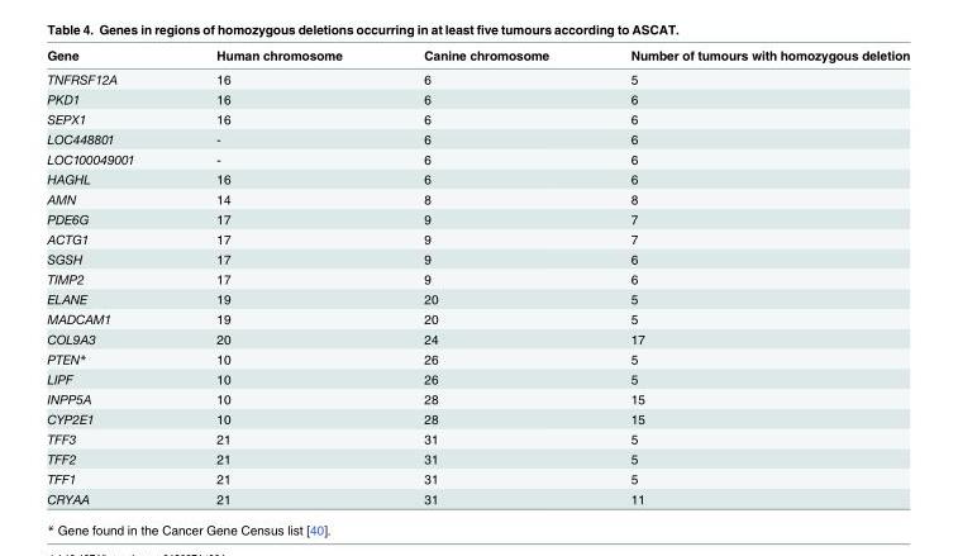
<table><thead><tr><td>Gene</td><td>Human chromosome</td><td>Canine chromosome</td><td>Number of tumours with homozygous deletion</td></tr></thead><tbody><tr><td>TNFRSF12A</td><td>16</td><td>6</td><td>5</td></tr><tr><td>PKD1</td><td>16</td><td>6</td><td>6</td></tr><tr><td>SEPX1</td><td>16</td><td>6</td><td>6</td></tr><tr><td>LOC448801</td><td>-</td><td>6</td><td>6</td></tr><tr><td>LOC100049001</td><td>-</td><td>6</td><td>6</td></tr><tr><td>HAGHL</td><td>16</td><td>6</td><td>6</td></tr><tr><td>AMN</td><td>14</td><td>8</td><td>8</td></tr><tr><td>PDE6G</td><td>17</td><td>9</td><td>7</td></tr><tr><td>ACTG1</td><td>17</td><td>9</td><td>7</td></tr><tr><td>SGSH</td><td>17</td><td>9</td><td>6</td></tr><tr><td>TIMP2</td><td>17</td><td>9</td><td>6</td></tr><tr><td>ELANE</td><td>19</td><td>20</td><td>5</td></tr><tr><td>MADCAM1</td><td>19</td><td>20</td><td>5</td></tr><tr><td>COL9A3</td><td>20</td><td>24</td><td>17</td></tr><tr><td>PTEN*</td><td>10</td><td>26</td><td>5</td></tr><tr><td>LIPF</td><td>10</td><td>26</td><td>5</td></tr><tr><td>INPP5A</td><td>10</td><td>28</td><td>15</td></tr><tr><td>CYP2E1</td><td>10</td><td>28</td><td>15</td></tr><tr><td>TFF3</td><td>21</td><td>31</td><td>5</td></tr><tr><td>TFF2</td><td>21</td><td>31</td><td>5</td></tr><tr><td>TFF1</td><td>21</td><td>31</td><td>5</td></tr><tr><td>CRYAA</td><td>21</td><td>31</td><td>11</td></tr></tbody></table>